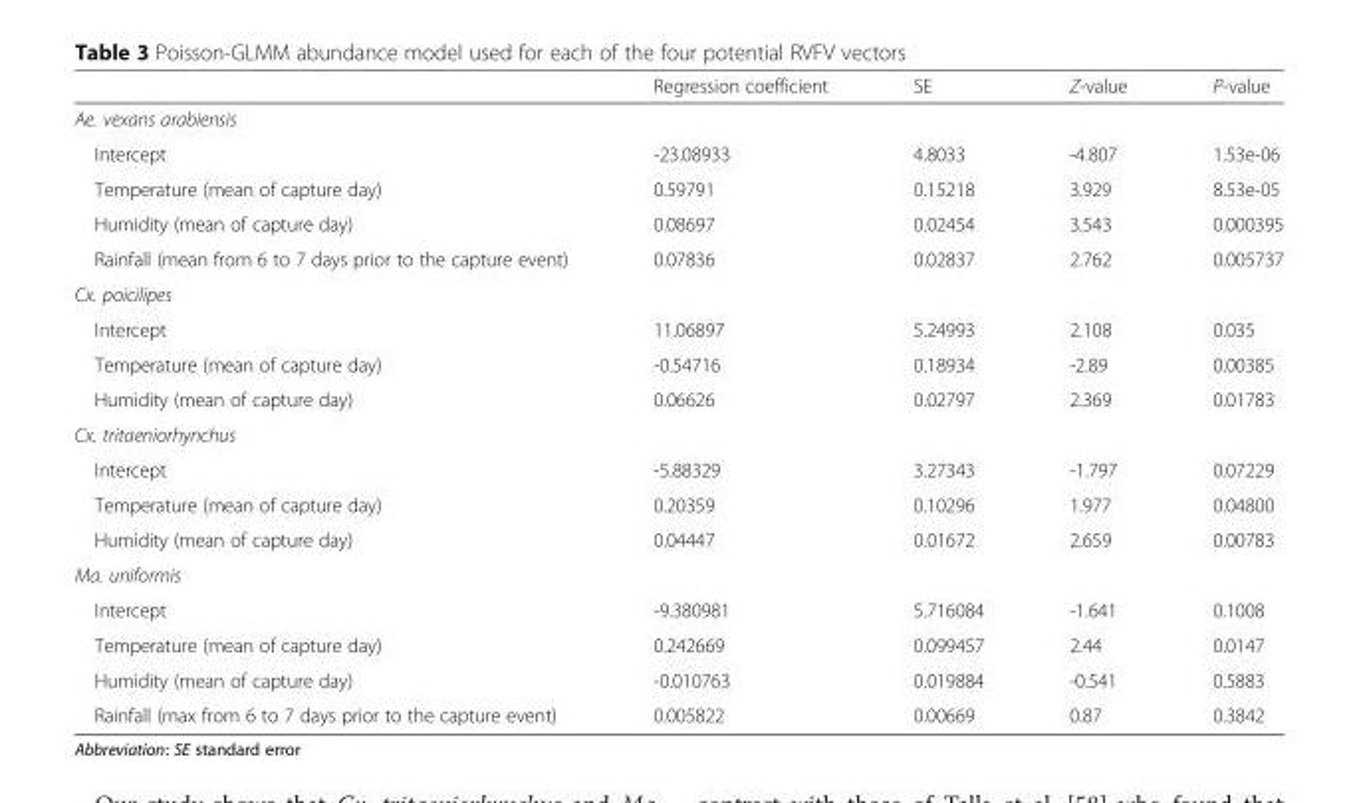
<table><thead><tr><td></td><td>Regression coefficient</td><td>SE</td><td>Z-value</td><td>P-value</td></tr></thead><tbody><tr><td colspan="5">Ae. vexans arabiensis</td></tr><tr><td>Intercept</td><td>-23.08933</td><td>4.8033</td><td>-4.807</td><td>1.53e-06</td></tr><tr><td>Temperature (mean of capture day)</td><td>0.59791</td><td>0.15218</td><td>3.929</td><td>8.53e-05</td></tr><tr><td>Humidity (mean of capture day)</td><td>0.08697</td><td>0.02454</td><td>3.543</td><td>0.000395</td></tr><tr><td>Rainfall (mean from 6 to 7 days prior to the capture event)</td><td>0.07836</td><td>0.02837</td><td>2.762</td><td>0.005737</td></tr><tr><td colspan="5">Cx. poicilipes</td></tr><tr><td>Intercept</td><td>11.06897</td><td>5.24993</td><td>2.108</td><td>0.035</td></tr><tr><td>Temperature (mean of capture day)</td><td>-0.54716</td><td>0.18934</td><td>-2.89</td><td>0.00385</td></tr><tr><td>Humidity (mean of capture day)</td><td>0.06626</td><td>0.02797</td><td>2.369</td><td>0.01783</td></tr><tr><td colspan="5">Cx. tritaeniorhynchus</td></tr><tr><td>Intercept</td><td>-5.88329</td><td>3.27343</td><td>-1.797</td><td>0.07229</td></tr><tr><td>Temperature (mean of capture day)</td><td>0.20359</td><td>0.10296</td><td>1.977</td><td>0.04800</td></tr><tr><td>Humidity (mean of capture day)</td><td>0.04447</td><td>0.01672</td><td>2.659</td><td>0.00783</td></tr><tr><td colspan="5">Ma. uniformis</td></tr><tr><td>Intercept</td><td>-9.380981</td><td>5.716084</td><td>-1.641</td><td>0.1008</td></tr><tr><td>Temperature (mean of capture day)</td><td>0.242669</td><td>0.099457</td><td>2.44</td><td>0.0147</td></tr><tr><td>Humidity (mean of capture day)</td><td>-0.010763</td><td>0.019884</td><td>-0.541</td><td>0.5883</td></tr><tr><td>Rainfall (max from 6 to 7 days prior to the capture event)</td><td>0.005822</td><td>0.00669</td><td>0.87</td><td>0.3842</td></tr></tbody></table>